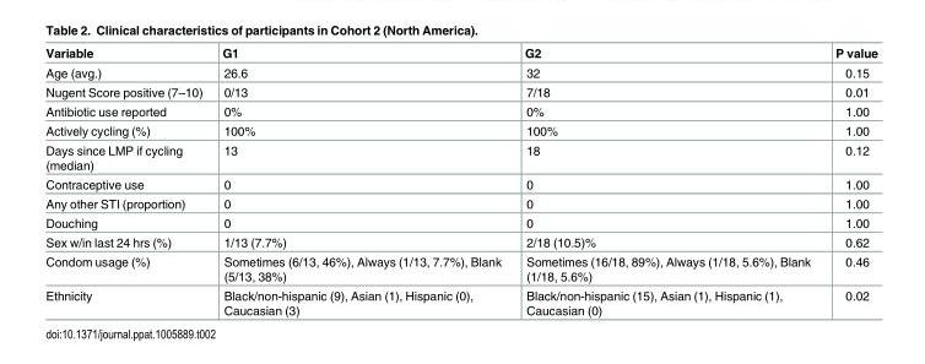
<table><thead><tr><td>Variable</td><td>G1</td><td>G2</td><td>P value</td></tr></thead><tbody><tr><td>Age (avg.)</td><td>26.6</td><td>32</td><td>0.15</td></tr><tr><td>Nugent Score positive (7–10)</td><td>0/13</td><td>7/18</td><td>0.01</td></tr><tr><td>Antibiotic use reported</td><td>0%</td><td>0%</td><td>1.00</td></tr><tr><td>Actively cycling (%)</td><td>100%</td><td>100%</td><td>1.00</td></tr><tr><td>Days since LMP if cycling (median)</td><td>13</td><td>18</td><td>0.12</td></tr><tr><td>Contraceptive use</td><td>0</td><td>0</td><td>1.00</td></tr><tr><td>Any other STI (proportion)</td><td>0</td><td>0</td><td>1.00</td></tr><tr><td>Douching</td><td>0</td><td>0</td><td>1.00</td></tr><tr><td>Sex w/in last 24 hrs (%)</td><td>1/13 (7.7%)</td><td>2/18 (10.5)%</td><td>0.62</td></tr><tr><td>Condom usage (%)</td><td>Sometimes (6/13, 46%), Always (1/13, 7.7%), Blank (5/13, 38%)</td><td>Sometimes (16/18, 89%), Always (1/18, 5.6%), Blank (1/18, 5.6%)</td><td>0.46</td></tr><tr><td>Ethnicity</td><td>Black/non-hispanic (9), Asian (1), Hispanic (0), Caucasian (3)</td><td>Black/non-hispanic (15), Asian (1), Hispanic (1), Caucasian (0)</td><td>0.02</td></tr></tbody></table>